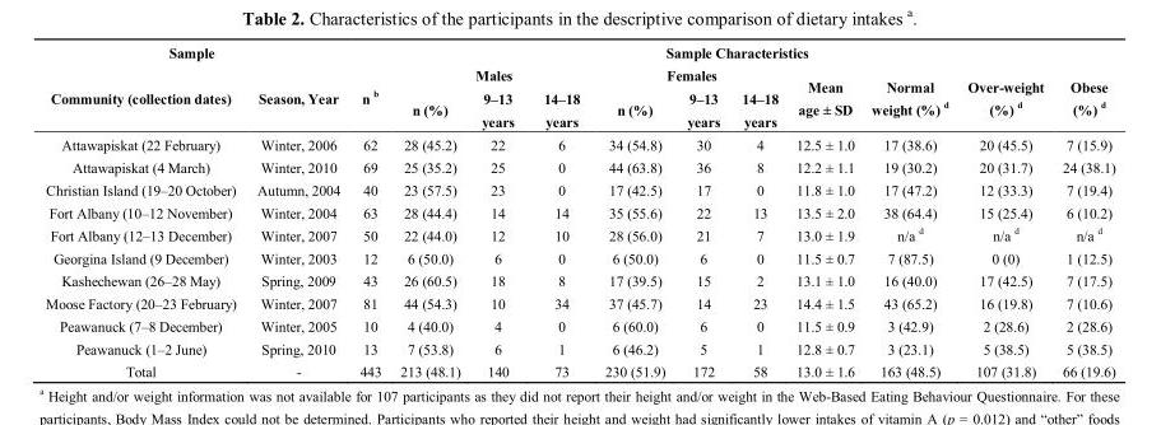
<table><thead><tr><td colspan="2">Sample</td><td colspan="11">Sample Characteristics</td></tr><tr><td rowspan="2">Community (collection dates)</td><td rowspan="2">Season, Year</td><td rowspan="2">n <sup>b</sup></td><td colspan="3">Males</td><td colspan="3">Females</td><td rowspan="2">Mean age ± SD</td><td rowspan="2">Normal weight (%) <sup>d</sup></td><td rowspan="2">Over-weight (%) <sup>d</sup></td><td rowspan="2">Obese (%) <sup>d</sup></td></tr><tr><td>n (%)</td><td>9–13 years</td><td>14–18 years</td><td>n (%)</td><td>9–13 years</td><td>14–18 years</td></tr></thead><tbody><tr><td>Attawapiskat (22 February)</td><td>Winter, 2006</td><td>62</td><td>28 (45.2)</td><td>22</td><td>6</td><td>34 (54.8)</td><td>30</td><td>4</td><td>12.5 ± 1.0</td><td>17 (38.6)</td><td>20 (45.5)</td><td>7 (15.9)</td></tr><tr><td>Attawapiskat (4 March)</td><td>Winter, 2010</td><td>69</td><td>25 (35.2)</td><td>25</td><td>0</td><td>44 (63.8)</td><td>36</td><td>8</td><td>12.2 ± 1.1</td><td>19 (30.2)</td><td>20 (31.7)</td><td>24 (38.1)</td></tr><tr><td>Christian Island (19–20 October)</td><td>Autumn, 2004</td><td>40</td><td>23 (57.5)</td><td>23</td><td>0</td><td>17 (42.5)</td><td>17</td><td>0</td><td>11.8 ± 1.0</td><td>17 (47.2)</td><td>12 (33.3)</td><td>7 (19.4)</td></tr><tr><td>Fort Albany (10–12 November)</td><td>Winter, 2004</td><td>63</td><td>28 (44.4)</td><td>14</td><td>14</td><td>35 (55.6)</td><td>22</td><td>13</td><td>13.5 ± 2.0</td><td>38 (64.4)</td><td>15 (25.4)</td><td>6 (10.2)</td></tr><tr><td>Fort Albany (12–13 December)</td><td>Winter, 2007</td><td>50</td><td>22 (44.0)</td><td>12</td><td>10</td><td>28 (56.0)</td><td>21</td><td>7</td><td>13.0 ± 1.9</td><td>n/a <sup>d</sup></td><td>n/a <sup>d</sup></td><td>n/a <sup>d</sup></td></tr><tr><td>Georgina Island (9 December)</td><td>Winter, 2003</td><td>12</td><td>6 (50.0)</td><td>6</td><td>0</td><td>6 (50.0)</td><td>6</td><td>0</td><td>11.5 ± 0.7</td><td>7 (87.5)</td><td>0 (0)</td><td>1 (12.5)</td></tr><tr><td>Kashechewan (26–28 May)</td><td>Spring, 2009</td><td>43</td><td>26 (60.5)</td><td>18</td><td>8</td><td>17 (39.5)</td><td>15</td><td>2</td><td>13.1 ± 1.0</td><td>16 (40.0)</td><td>17 (42.5)</td><td>7 (17.5)</td></tr><tr><td>Moose Factory (20–23 February)</td><td>Winter, 2007</td><td>81</td><td>44 (54.3)</td><td>10</td><td>34</td><td>37 (45.7)</td><td>14</td><td>23</td><td>14.4 ± 1.5</td><td>43 (65.2)</td><td>16 (19.8)</td><td>7 (10.6)</td></tr><tr><td>Peawanuck (7–8 December)</td><td>Winter, 2005</td><td>10</td><td>4 (40.0)</td><td>4</td><td>0</td><td>6 (60.0)</td><td>6</td><td>0</td><td>11.5 ± 0.9</td><td>3 (42.9)</td><td>2 (28.6)</td><td>2 (28.6)</td></tr><tr><td>Peawanuck (1–2 June)</td><td>Spring, 2010</td><td>13</td><td>7 (53.8)</td><td>6</td><td>1</td><td>6 (46.2)</td><td>5</td><td>1</td><td>12.8 ± 0.7</td><td>3 (23.1)</td><td>5 (38.5)</td><td>5 (38.5)</td></tr><tr><td>Total</td><td>-</td><td>443</td><td>213 (48.1)</td><td>140</td><td>73</td><td>230 (51.9)</td><td>172</td><td>58</td><td>13.0 ± 1.6</td><td>163 (48.5)</td><td>107 (31.8)</td><td>66 (19.6)</td></tr></tbody></table>